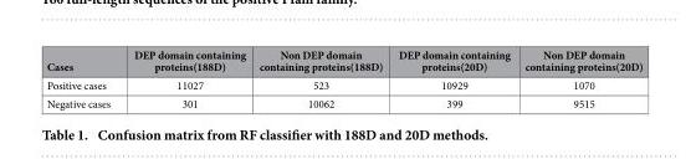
<table><thead><tr><td>Cases</td><td>DEP domain containing proteins(188D)</td><td>Non DEP domain containing proteins(188D)</td><td>DEP domain containing proteins(20D)</td><td>Non DEP domain containing proteins(20D)</td></tr></thead><tbody><tr><td>Positive cases</td><td>11027</td><td>523</td><td>10929</td><td>1070</td></tr><tr><td>Negative cases</td><td>301</td><td>10062</td><td>399</td><td>9515</td></tr></tbody></table>